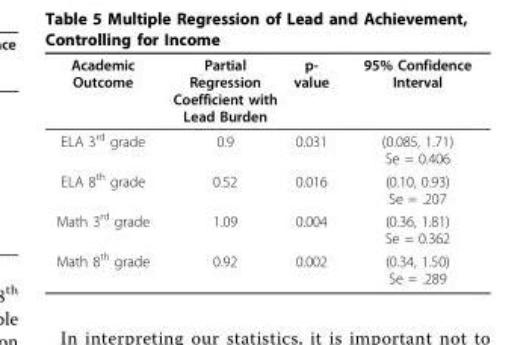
<table><thead><tr><td>Academic Outcome</td><td>Partial Regression Coefficient with Lead Burden</td><td>p- value</td><td>95% Confidence Interval</td></tr></thead><tbody><tr><td>ELA 3<sup>rd</sup> grade</td><td>0.9</td><td>0.031</td><td>(0.085, 1.71) Se = 0.406</td></tr><tr><td>ELA 8<sup>th</sup> grade</td><td>0.52</td><td>0.016</td><td>(0.10, 0.93) Se = .207</td></tr><tr><td>Math 3<sup>rd</sup> grade</td><td>1.09</td><td>0.004</td><td>(0.36, 1.81) Se = 0.362</td></tr><tr><td>Math 8<sup>th</sup> grade</td><td>0.92</td><td>0.002</td><td>(0.34, 1.50) Se = .289</td></tr></tbody></table>